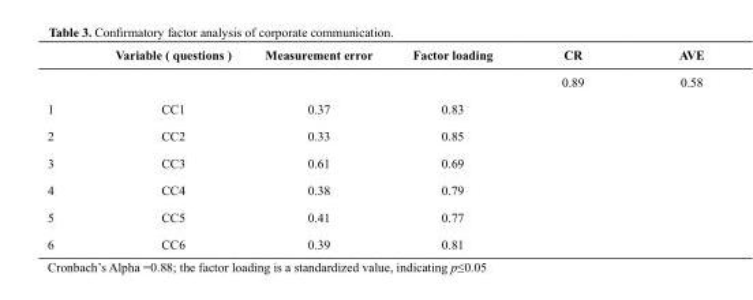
<table><thead><tr><td></td><td>Variable ( questions )</td><td>Measurement error</td><td>Factor loading</td><td>CR</td><td>AVE</td></tr></thead><tbody><tr><td colspan="4"></td><td>0.89</td><td>0.58</td></tr><tr><td>1</td><td>CC1</td><td>0.37</td><td>0.83</td><td rowspan="6" colspan="2"></td></tr><tr><td>2</td><td>CC2</td><td>0.33</td><td>0.85</td></tr><tr><td>3</td><td>CC3</td><td>0.61</td><td>0.69</td></tr><tr><td>4</td><td>CC4</td><td>0.38</td><td>0.79</td></tr><tr><td>5</td><td>CC5</td><td>0.41</td><td>0.77</td></tr><tr><td>6</td><td>CC6</td><td>0.39</td><td>0.81</td></tr></tbody></table>